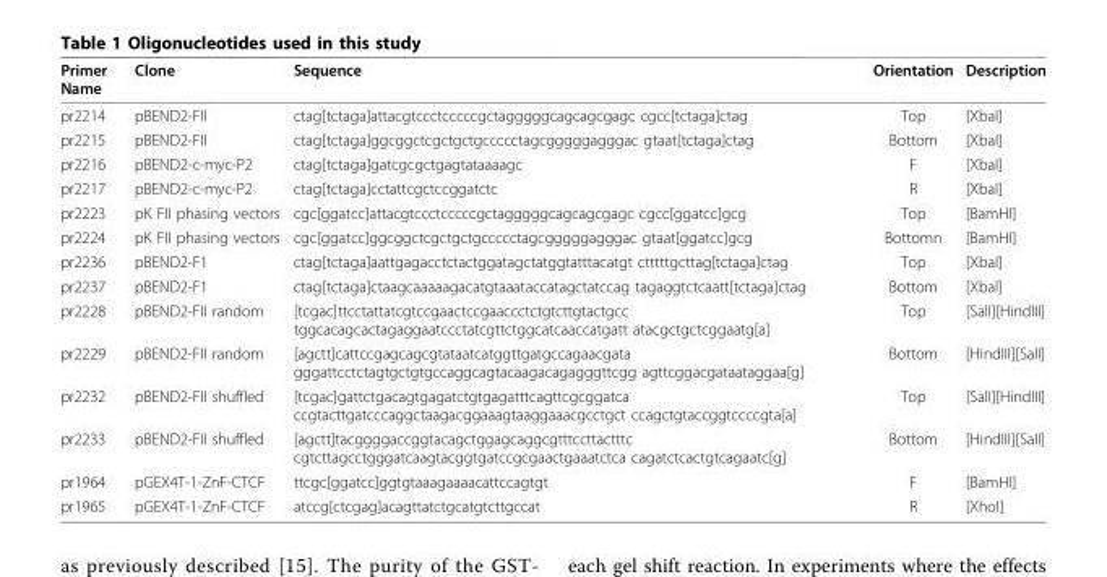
<table><thead><tr><td>Primer Name</td><td>Clone</td><td>Sequence</td><td>Orientation</td><td>Description</td></tr></thead><tbody><tr><td>pr2214</td><td>pBEND2-FII</td><td>ctag[tctaga]attacgtccctcccccgctagggggcagcagcgagc cgcc[tctaga]ctag</td><td>Top</td><td>[XbaI]</td></tr><tr><td>pr2215</td><td>pBEND2-FII</td><td>ctag[tctaga]ggcggctcgctgctgccccctagcgggggagggac gtaat[tctaga]ctag</td><td>Bottom</td><td>[XbaI]</td></tr><tr><td>pr2216</td><td>pBEND2-c-myc-P2</td><td>ctag[tctaga]gatcgcgctgagtataaaagc</td><td>F</td><td>[XbaI]</td></tr><tr><td>pr2217</td><td>pBEND2-c-myc-P2</td><td>ctag[tctaga]cctattcgctccggatctc</td><td>R</td><td>[XbaI]</td></tr><tr><td>pr2223</td><td>pK FII phasing vectors</td><td>cgc[ggatcc]attacgtccctcccccgctagggggcagcagcgagc cgcc[ggatcc]gcg</td><td>Top</td><td>[BamHI]</td></tr><tr><td>pr2224</td><td>pK FII phasing vectors</td><td>cgc[ggatcc]ggcggctcgctgctgccccctagcgggggagggac gtaat[ggatcc]gcg</td><td>Bottomn</td><td>[BamHI]</td></tr><tr><td>pr2236</td><td>pBEND2-F1</td><td>ctag[tctaga]aattgagacctctactggatagctatggtatttacatgt ctttttgcttag[tctaga]ctag</td><td>Top</td><td>[XbaI]</td></tr><tr><td>pr2237</td><td>pBEND2-F1</td><td>ctag[tctaga]ctaagcaaaaagacatgtaaataccatagctatccag tagaggtctcaatt[tctaga]ctag</td><td>Bottom</td><td>[XbaI]</td></tr><tr><td>pr2228</td><td>pBEND2-FII random</td><td>[tcgac]ttcctattatcgtccgaactccgaaccctctgtcttgtactgcc tggcacagcactagaggaatccctatcgttctggcatcaaccatgatt atacgctgctcggaatg[a]</td><td>Top</td><td>[SalI][HindIII]</td></tr><tr><td>pr2229</td><td>pBEND2-FII random</td><td>[agctt]cattccgagcagcgtataatcatggttgatgccagaacgata gggattcctctagtgctgtgccaggcagtacaagacagagggttcgg agttcggacgataataggaa[g]</td><td>Bottom</td><td>[HindIII][SalI]</td></tr><tr><td>pr2232</td><td>pBEND2-FII shuffled</td><td>[tcgac]gattctgacagtgagatctgtgagatttcagttcgcggatca ccgtacttgatcccaggctaagacggaaagtaaggaaacgcctgct ccagctgtaccggtccccgta[a]</td><td>Top</td><td>[SalI][HindIII]</td></tr><tr><td>pr2233</td><td>pBEND2-FII shuffled</td><td>[agctt]tacggggaccggtacagctggagcaggcgtttccttactttc cgtcttagcctgggatcaagtacggtgatccgcgaactgaaatctca cagatctcactgtcagaatc[g]</td><td>Bottom</td><td>[HindIII][SalI]</td></tr><tr><td>pr1964</td><td>pGEX4T-1-ZnF-CTCF</td><td>ttcgc[ggatcc]ggtgtaaagaaaacattccagtgt</td><td>F</td><td>[BamHI]</td></tr><tr><td>pr1965</td><td>pGEX4T-1-ZnF-CTCF</td><td>atccg[ctcgag]acagttatctgcatgtcttgccat</td><td>R</td><td>[XhoI]</td></tr></tbody></table>